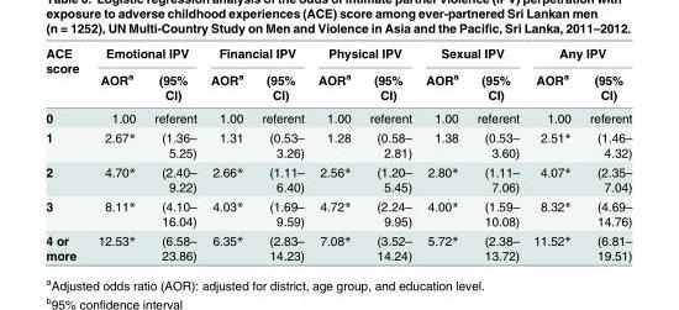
<table><thead><tr><td rowspan="2">ACE score</td><td colspan="2">Emotional IPV</td><td colspan="2">Financial IPV</td><td colspan="2">Physical IPV</td><td colspan="2">Sexual IPV</td><td colspan="2">Any IPV</td></tr><tr><td>AOR<sup>a</sup></td><td>(95% CI)</td><td>AOR<sup>a</sup></td><td>(95% CI)</td><td>AOR<sup>a</sup></td><td>(95% CI)</td><td>AOR<sup>a</sup></td><td>(95% CI)</td><td>AOR<sup>a</sup></td><td>(95% CI)</td></tr></thead><tbody><tr><td>0</td><td>1.00</td><td>referent</td><td>1.00</td><td>referent</td><td>1.00</td><td>referent</td><td>1.00</td><td>referent</td><td>1.00</td><td>referent</td></tr><tr><td>1</td><td>2.67*</td><td>(1.36– 5.25)</td><td>1.31</td><td>(0.53– 3.26)</td><td>1.28</td><td>(0.58– 2.81)</td><td>1.38</td><td>(0.53– 3.60)</td><td>2.51*</td><td>(1.46– 4.32)</td></tr><tr><td>2</td><td>4.70*</td><td>(2.40– 9.22)</td><td>2.66*</td><td>(1.11– 6.40)</td><td>2.56*</td><td>(1.20– 5.45)</td><td>2.80*</td><td>(1.11– 7.06)</td><td>4.07*</td><td>(2.35– 7.04)</td></tr><tr><td>3</td><td>8.11*</td><td>(4.10– 16.04)</td><td>4.03*</td><td>(1.69– 9.59)</td><td>4.72*</td><td>(2.24– 9.95)</td><td>4.00*</td><td>(1.59– 10.08)</td><td>8.32*</td><td>(4.69– 14.76)</td></tr><tr><td>4 or more</td><td>12.53*</td><td>(6.58– 23.86)</td><td>6.35*</td><td>(2.83– 14.23)</td><td>7.08*</td><td>(3.52– 14.24)</td><td>5.72*</td><td>(2.38– 13.72)</td><td>11.52*</td><td>(6.81– 19.51)</td></tr></tbody></table>